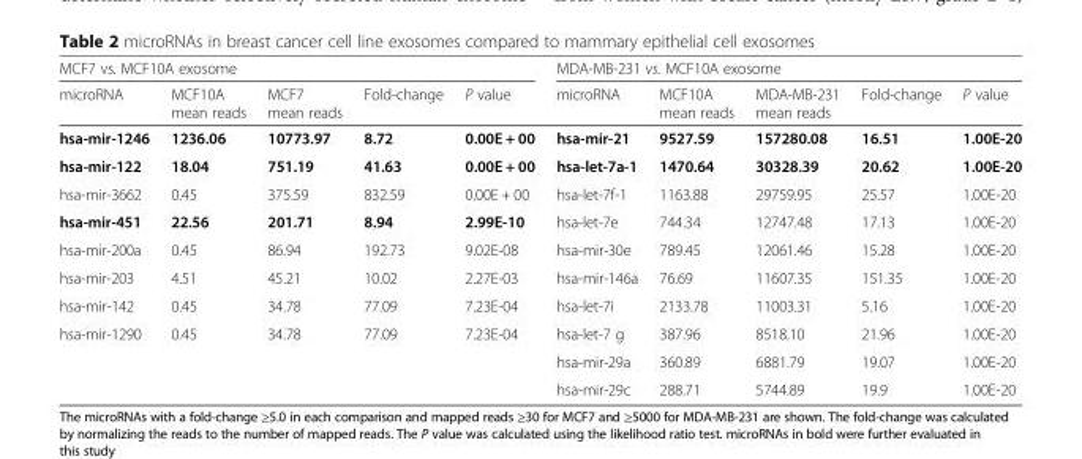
<table><thead><tr><td colspan="5">MCF7 vs. MCF10A exosome</td><td colspan="5">MDA-MB-231 vs. MCF10A exosome</td></tr><tr><td>microRNA</td><td>MCF10A mean reads</td><td>MCF7 mean reads</td><td>Fold-change</td><td>P value</td><td>microRNA</td><td>MCF10A mean reads</td><td>MDA-MB-231 mean reads</td><td>Fold-change</td><td>P value</td></tr></thead><tbody><tr><td>hsa-mir-1246</td><td>1236.06</td><td>10773.97</td><td>8.72</td><td>0.00E + 00</td><td>hsa-mir-21</td><td>9527.59</td><td>157280.08</td><td>16.51</td><td>1.00E-20</td></tr><tr><td>hsa-mir-122</td><td>18.04</td><td>751.19</td><td>41.63</td><td>0.00E + 00</td><td>hsa-let-7a-1</td><td>1470.64</td><td>30328.39</td><td>20.62</td><td>1.00E-20</td></tr><tr><td>hsa-mir-3662</td><td>0.45</td><td>375.59</td><td>832.59</td><td>0.00E + 00</td><td>hsa-let-7f-1</td><td>1163.88</td><td>29759.95</td><td>25.57</td><td>1.00E-20</td></tr><tr><td>hsa-mir-451</td><td>22.56</td><td>201.71</td><td>8.94</td><td>2.99E-10</td><td>hsa-let-7e</td><td>744.34</td><td>12747.48</td><td>17.13</td><td>1.00E-20</td></tr><tr><td>hsa-mir-200a</td><td>0.45</td><td>86.94</td><td>192.73</td><td>9.02E-08</td><td>hsa-mir-30e</td><td>789.45</td><td>12061.46</td><td>15.28</td><td>1.00E-20</td></tr><tr><td>hsa-mir-203</td><td>4.51</td><td>45.21</td><td>10.02</td><td>2.27E-03</td><td>hsa-mir-146a</td><td>76.69</td><td>11607.35</td><td>151.35</td><td>1.00E-20</td></tr><tr><td>hsa-mir-142</td><td>0.45</td><td>34.78</td><td>77.09</td><td>7.23E-04</td><td>hsa-let-7i</td><td>2133.78</td><td>11003.31</td><td>5.16</td><td>1.00E-20</td></tr><tr><td>hsa-mir-1290</td><td>0.45</td><td>34.78</td><td>77.09</td><td>7.23E-04</td><td>hsa-let-7 g</td><td>387.96</td><td>8518.10</td><td>21.96</td><td>1.00E-20</td></tr><tr><td colspan="5"></td><td>hsa-mir-29a</td><td>360.89</td><td>6881.79</td><td>19.07</td><td>1.00E-20</td></tr><tr><td colspan="5"></td><td>hsa-mir-29c</td><td>288.71</td><td>5744.89</td><td>19.9</td><td>1.00E-20</td></tr></tbody></table>